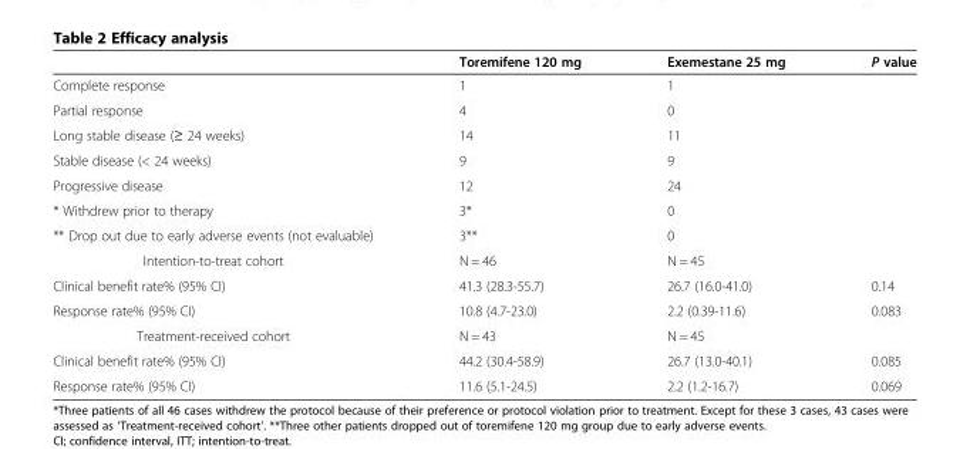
<table><thead><tr><td></td><td>Toremifene 120 mg</td><td>Exemestane 25 mg</td><td>P value</td></tr></thead><tbody><tr><td>Complete response</td><td>1</td><td>1</td><td></td></tr><tr><td>Partial response</td><td>4</td><td>0</td><td></td></tr><tr><td>Long stable disease (≥ 24 weeks)</td><td>14</td><td>11</td><td></td></tr><tr><td>Stable disease (&lt; 24 weeks)</td><td>9</td><td>9</td><td></td></tr><tr><td>Progressive disease</td><td>12</td><td>24</td><td></td></tr><tr><td>* Withdrew prior to therapy</td><td>3*</td><td>0</td><td></td></tr><tr><td>** Drop out due to early adverse events (not evaluable)</td><td>3**</td><td>0</td><td></td></tr><tr><td>Intention-to-treat cohort</td><td>N = 46</td><td>N = 45</td><td></td></tr><tr><td>Clinical benefit rate% (95% CI)</td><td>41.3 (28.3-55.7)</td><td>26.7 (16.0-41.0)</td><td>0.14</td></tr><tr><td>Response rate% (95% CI)</td><td>10.8 (4.7-23.0)</td><td>2.2 (0.39-11.6)</td><td>0.083</td></tr><tr><td>Treatment-received cohort</td><td>N = 43</td><td>N = 45</td><td></td></tr><tr><td>Clinical benefit rate% (95% CI)</td><td>44.2 (30.4-58.9)</td><td>26.7 (13.0-40.1)</td><td>0.085</td></tr><tr><td>Response rate% (95% CI)</td><td>11.6 (5.1-24.5)</td><td>2.2 (1.2-16.7)</td><td>0.069</td></tr></tbody></table>